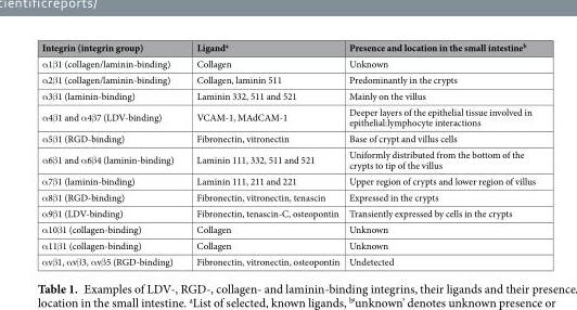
<table><thead><tr><td>Integrin (integrin group)</td><td>Ligand<sup>a</sup></td><td>Presence and location in the small intestine<sup>b</sup></td></tr></thead><tbody><tr><td>α1β1 (collagen/laminin-binding)</td><td>Collagen</td><td>Unknown</td></tr><tr><td>α2β1 (collagen/laminin-binding)</td><td>Collagen, laminin 511</td><td>Predominantly in the crypts</td></tr><tr><td>α3β1 (laminin-binding)</td><td>Laminin 332, 511 and 521</td><td>Mainly on the villus</td></tr><tr><td>α4β1 and α4β7 (LDV-binding)</td><td>VCAM-1, MAdCAM-1</td><td>Deeper layers of the epithelial tissue involved in epithelial:lymphocyte interactions</td></tr><tr><td>α5β1 (RGD-binding)</td><td>Fibronectin, vitronectin</td><td>Base of crypt and villus cells</td></tr><tr><td>α6β1 and α6β4 (laminin-binding)</td><td>Laminin 111, 332, 511 and 521</td><td>Uniformly distributed from the bottom of the crypts to tip of the villus</td></tr><tr><td>α7β1 (laminin-binding)</td><td>Laminin 111, 211 and 221</td><td>Upper region of crypts and lower region of villus</td></tr><tr><td>α8β1 (RGD-binding)</td><td>Fibronectin, vitronectin, tenascin</td><td>Expressed in the crypts</td></tr><tr><td>α9β1 (LDV-binding)</td><td>Fibronectin, tenascin-C, osteopontin</td><td>Transiently expressed by cells in the crypts</td></tr><tr><td>α10β1 (collagen-binding)</td><td>Collagen</td><td>Unknown</td></tr><tr><td>α11β1 (collagen-binding)</td><td>Collagen</td><td>Unknown</td></tr><tr><td>αvβ1, αvβ3, αvβ5 (RGD-binding)</td><td>Fibronectin, vitronectin, osteopontin</td><td>Undetected</td></tr></tbody></table>